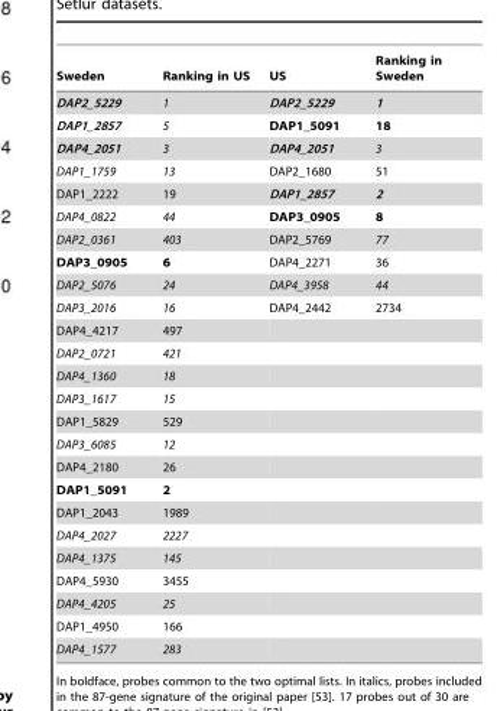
<table><thead><tr><td>Sweden</td><td>Ranking in US</td><td>US</td><td>Ranking in Sweden</td></tr></thead><tbody><tr><td>DAP2_5229</td><td>1</td><td>DAP2_5229</td><td>1</td></tr><tr><td>DAP1_2857</td><td>5</td><td>DAP1_5091</td><td>18</td></tr><tr><td>DAP4_2051</td><td>3</td><td>DAP4_2051</td><td>3</td></tr><tr><td>DAP1_1759</td><td>13</td><td>DAP2_1680</td><td>51</td></tr><tr><td>DAP1_2222</td><td>19</td><td>DAP1_2857</td><td>2</td></tr><tr><td>DAP4_0822</td><td>44</td><td>DAP3_0905</td><td>8</td></tr><tr><td>DAP2_0361</td><td>403</td><td>DAP2_5769</td><td>77</td></tr><tr><td>DAP3_0905</td><td>6</td><td>DAP4_2271</td><td>36</td></tr><tr><td>DAP2_5076</td><td>24</td><td>DAP4_3958</td><td>44</td></tr><tr><td>DAP3_2016</td><td>16</td><td>DAP4_2442</td><td>2734</td></tr><tr><td>DAP4_4217</td><td>497</td><td></td><td></td></tr><tr><td>DAP2_0721</td><td>421</td><td></td><td></td></tr><tr><td>DAP4_1360</td><td>18</td><td></td><td></td></tr><tr><td>DAP3_1617</td><td>15</td><td></td><td></td></tr><tr><td>DAP1_5829</td><td>529</td><td></td><td></td></tr><tr><td>DAP3_6085</td><td>12</td><td></td><td></td></tr><tr><td>DAP4_2180</td><td>26</td><td></td><td></td></tr><tr><td>DAP1_5091</td><td>2</td><td></td><td></td></tr><tr><td>DAP1_2043</td><td>1989</td><td></td><td></td></tr><tr><td>DAP4_2027</td><td>2227</td><td></td><td></td></tr><tr><td>DAP4_1375</td><td>145</td><td></td><td></td></tr><tr><td>DAP4_5930</td><td>3455</td><td></td><td></td></tr><tr><td>DAP4_4205</td><td>25</td><td></td><td></td></tr><tr><td>DAP1_4950</td><td>166</td><td></td><td></td></tr><tr><td>DAP4_1577</td><td>283</td><td></td><td></td></tr></tbody></table>